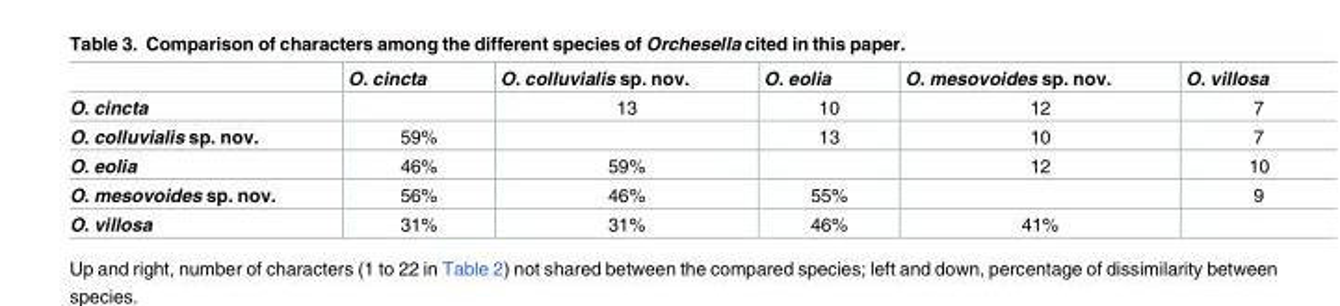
<table><thead><tr><td></td><td>O. cincta</td><td>O. colluvialis sp. nov.</td><td>O. eolia</td><td>O. mesovoides sp. nov.</td><td>O. villosa</td></tr></thead><tbody><tr><td>O. cincta</td><td></td><td>13</td><td>10</td><td>12</td><td>7</td></tr><tr><td>O. colluvialis sp. nov.</td><td>59%</td><td></td><td>13</td><td>10</td><td>7</td></tr><tr><td>O. eolia</td><td>46%</td><td>59%</td><td></td><td>12</td><td>10</td></tr><tr><td>O. mesovoides sp. nov.</td><td>56%</td><td>46%</td><td>55%</td><td></td><td>9</td></tr><tr><td>O. villosa</td><td>31%</td><td>31%</td><td>46%</td><td>41%</td><td></td></tr></tbody></table>